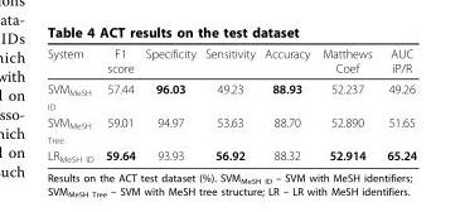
<table><thead><tr><td>System</td><td>F1 score</td><td>Specificity</td><td>Sensitivity</td><td>Accuracy</td><td>Matthews Coef</td><td>AUC iP/R</td></tr></thead><tbody><tr><td>SVM<sub>MeSH ID</sub></td><td>57.44</td><td>96.03</td><td>49.23</td><td>88.93</td><td>52.237</td><td>49.26</td></tr><tr><td>SVM<sub>MeSH Tree</sub></td><td>59.01</td><td>94.97</td><td>53.63</td><td>88.70</td><td>52.890</td><td>51.65</td></tr><tr><td>LR<sub>MeSH ID</sub></td><td>59.64</td><td>93.93</td><td>56.92</td><td>88.32</td><td>52.914</td><td>65.24</td></tr></tbody></table>